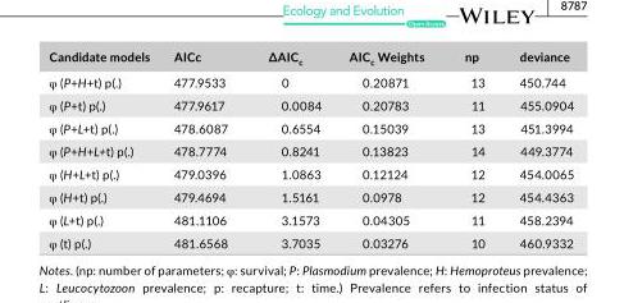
<table><thead><tr><td>Candidate models</td><td>AICc</td><td>∆AIC<sub>c</sub></td><td>AIC<sub>c</sub> Weights</td><td>np</td><td>deviance</td></tr></thead><tbody><tr><td>φ (P+H+t) p(.)</td><td>477.9533</td><td>0</td><td>0.20871</td><td>13</td><td>450.744</td></tr><tr><td>φ (P+t) p(.)</td><td>477.9617</td><td>0.0084</td><td>0.20783</td><td>11</td><td>455.0904</td></tr><tr><td>φ (P+L+t) p(.)</td><td>478.6087</td><td>0.6554</td><td>0.15039</td><td>13</td><td>451.3994</td></tr><tr><td>φ (P+H+L+t) p(.)</td><td>478.7774</td><td>0.8241</td><td>0.13823</td><td>14</td><td>449.3774</td></tr><tr><td>φ (H+L+t) p(.)</td><td>479.0396</td><td>1.0863</td><td>0.12124</td><td>12</td><td>454.0065</td></tr><tr><td>φ (H+t) p(.)</td><td>479.4694</td><td>1.5161</td><td>0.0978</td><td>12</td><td>454.4363</td></tr><tr><td>φ (L+t) p(.)</td><td>481.1106</td><td>3.1573</td><td>0.04305</td><td>11</td><td>458.2394</td></tr><tr><td>φ (t) p(.)</td><td>481.6568</td><td>3.7035</td><td>0.03276</td><td>10</td><td>460.9332</td></tr></tbody></table>